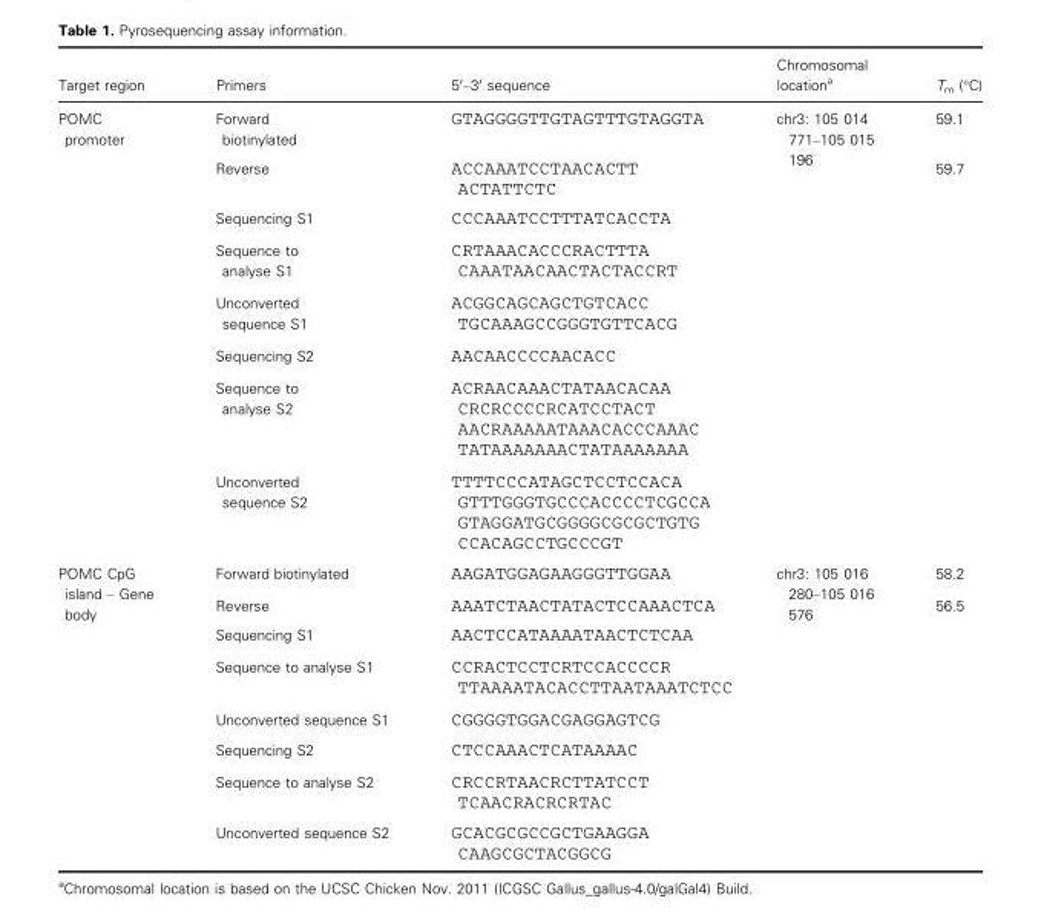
<table><thead><tr><td>Target region</td><td>Primers</td><td>5′–3′ sequence</td><td>Chromosomal location<sup>a</sup></td><td>T<sub>m</sub> (°C)</td></tr></thead><tbody><tr><td rowspan="8">POMC promoter</td><td>Forward biotinylated</td><td>GTAGGGGTTGTAGTTTGTAGGTA</td><td rowspan="2">chr3: 105 014 771–105 015 196</td><td>59.1</td></tr><tr><td>Reverse</td><td>ACCAAATCCTAACACTT ACTATTCTC</td><td>59.7</td></tr><tr><td>Sequencing S1</td><td colspan="3">CCCAAATCCTTTATCACCTA</td></tr><tr><td>Sequence to analyse S1</td><td colspan="3">CRTAAACACCCRACTTTA CAAATAACAACTACTACCRT</td></tr><tr><td>Unconverted sequence S1</td><td colspan="3">ACGGCAGCAGCTGTCACC TGCAAAGCCGGGTGTTCACG</td></tr><tr><td>Sequencing S2</td><td colspan="3">AACAACCCCAACACC</td></tr><tr><td>Sequence to analyse S2</td><td colspan="3">ACRAACAAACTATAACACAA CRCRCCCCRCATCCTACT AACRAAAAATAAACACCCAAAC TATAAAAAAACTATAAAAAAA</td></tr><tr><td>Unconverted sequence S2</td><td colspan="3">TTTTCCCATAGCTCCTCCACA GTTTGGGTGCCCACCCCTCGCCA GTAGGATGCGGGGCGCGCTGTG CCACAGCCTGCCCGT</td></tr><tr><td rowspan="8">POMC CpG island – Gene body</td><td>Forward biotinylated</td><td>AAGATGGAGAAGGGTTGGAA</td><td rowspan="2">chr3: 105 016 280–105 016 576</td><td>58.2</td></tr><tr><td>Reverse</td><td>AAATCTAACTATACTCCAAACTCA</td><td>56.5</td></tr><tr><td>Sequencing S1</td><td colspan="3">AACTCCATAAAATAACTCTCAA</td></tr><tr><td>Sequence to analyse S1</td><td colspan="3">CCRACTCCTCRTCCACCCCR TTAAAATACACCTTAATAAATCTCC</td></tr><tr><td>Unconverted sequence S1</td><td colspan="3">CGGGGTGGACGAGGAGTCG</td></tr><tr><td>Sequencing S2</td><td colspan="3">CTCCAAACTCATAAAAC</td></tr><tr><td>Sequence to analyse S2</td><td colspan="3">CRCCRTAACRCTTATCCT TCAACRACRCRTAC</td></tr><tr><td>Unconverted sequence S2</td><td colspan="3">GCACGCGCCGCTGAAGGA CAAGCGCTACGGCG</td></tr></tbody></table>